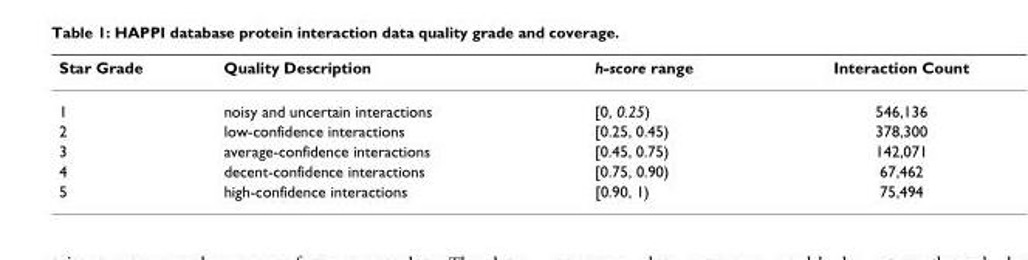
<table><thead><tr><td>Star Grade</td><td>Quality Description</td><td>h-score range</td><td>Interaction Count</td></tr></thead><tbody><tr><td>1</td><td>noisy and uncertain interactions</td><td>[0, 0.25)</td><td>546,136</td></tr><tr><td>2</td><td>low-confidence interactions</td><td>[0.25, 0.45)</td><td>378,300</td></tr><tr><td>3</td><td>average-confidence interactions</td><td>[0.45, 0.75)</td><td>142,071</td></tr><tr><td>4</td><td>decent-confidence interactions</td><td>[0.75, 0.90)</td><td>67,462</td></tr><tr><td>5</td><td>high-confidence interactions</td><td>[0.90, 1)</td><td>75,494</td></tr></tbody></table>